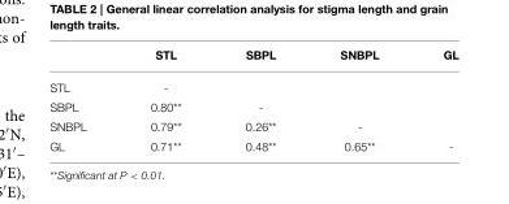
<table><thead><tr><td></td><td>STL</td><td>SBPL</td><td>SNBPL</td><td>GL</td></tr></thead><tbody><tr><td>STL</td><td>-</td><td></td><td></td><td></td></tr><tr><td>SBPL</td><td>0.80**</td><td>-</td><td></td><td></td></tr><tr><td>SNBPL</td><td>0.79**</td><td>0.26**</td><td>-</td><td></td></tr><tr><td>GL</td><td>0.71**</td><td>0.48**</td><td>0.65**</td><td>-</td></tr></tbody></table>